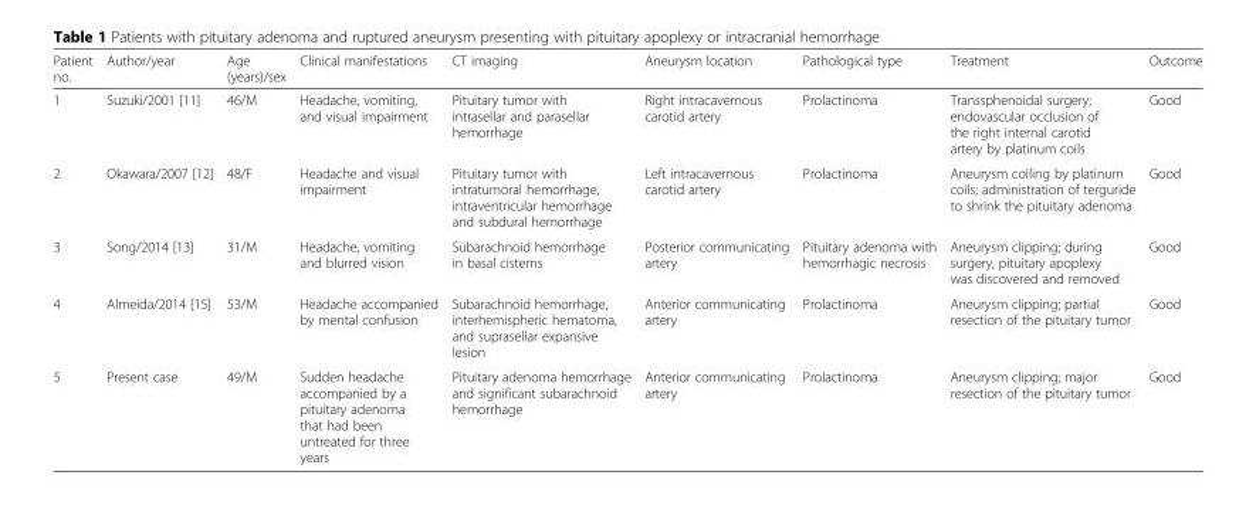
<table><thead><tr><td>Patient no.</td><td>Author/year</td><td>Age (years)/sex</td><td>Clinical manifestations</td><td>CT imaging</td><td>Aneurysm location</td><td>Pathological type</td><td>Treatment</td><td>Outcome</td></tr></thead><tbody><tr><td>1</td><td>Suzuki/2001 [11]</td><td>46/M</td><td>Headache, vomiting, and visual impairment</td><td>Pituitary tumor with intrasellar and parasellar hemorrhage</td><td>Right intracavernous carotid artery</td><td>Prolactinoma</td><td>Transsphenoidal surgery; endovascular occlusion of the right internal carotid artery by platinum coils</td><td>Good</td></tr><tr><td>2</td><td>Okawara/2007 [12]</td><td>48/F</td><td>Headache and visual impairment</td><td>Pituitary tumor with intratumoral hemorrhage, intraventricular hemorrhage and subdural hemorrhage</td><td>Left intracavernous carotid artery</td><td>Prolactinoma</td><td>Aneurysm coiling by platinum coils; administration of terguride to shrink the pituitary adenoma</td><td>Good</td></tr><tr><td>3</td><td>Song/2014 [13]</td><td>31/M</td><td>Headache, vomiting and blurred vision</td><td>Subarachnoid hemorrhage in basal cisterns</td><td>Posterior communicating artery</td><td>Pituitary adenoma with hemorrhagic necrosis</td><td>Aneurysm clipping; during surgery, pituitary apoplexy was discovered and removed</td><td>Good</td></tr><tr><td>4</td><td>Almeida/2014 [15]</td><td>53/M</td><td>Headache accompanied by mental confusion</td><td>Subarachnoid hemorrhage, interhemispheric hematoma, and suprasellar expansive lesion</td><td>Anterior communicating artery</td><td>Prolactinoma</td><td>Aneurysm clipping; partial resection of the pituitary tumor</td><td>Good</td></tr><tr><td>5</td><td>Present case</td><td>49/M</td><td>Sudden headache accompanied by a pituitary adenoma that had been untreated for three years</td><td>Pituitary adenoma hemorrhage and significant subarachnoid hemorrhage</td><td>Anterior communicating artery</td><td>Prolactinoma</td><td>Aneurysm clipping; major resection of the pituitary tumor</td><td>Good</td></tr></tbody></table>